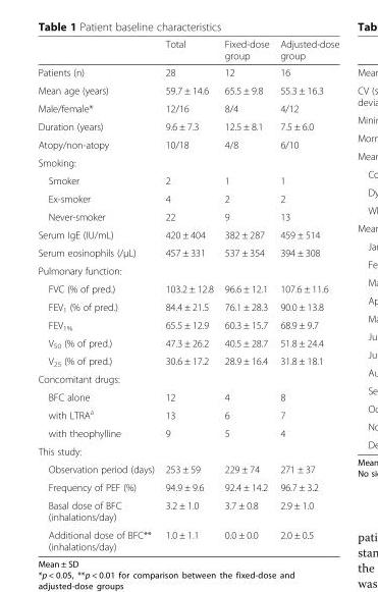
<table><thead><tr><td></td><td>Total</td><td>Fixed-dose group</td><td>Adjusted-dose group</td></tr></thead><tbody><tr><td>Patients (n)</td><td>28</td><td>12</td><td>16</td></tr><tr><td>Mean age (years)</td><td>59.7 ± 14.6</td><td>65.5 ± 9.8</td><td>55.3 ± 16.3</td></tr><tr><td>Male/female*</td><td>12/16</td><td>8/4</td><td>4/12</td></tr><tr><td>Duration (years)</td><td>9.6 ± 7.3</td><td>12.5 ± 8.1</td><td>7.5 ± 6.0</td></tr><tr><td>Atopy/non-atopy</td><td>10/18</td><td>4/8</td><td>6/10</td></tr><tr><td colspan="4">Smoking:</td></tr><tr><td>Smoker</td><td>2</td><td>1</td><td>1</td></tr><tr><td>Ex-smoker</td><td>4</td><td>2</td><td>2</td></tr><tr><td>Never-smoker</td><td>22</td><td>9</td><td>13</td></tr><tr><td>Serum IgE (IU/mL)</td><td>420 ± 404</td><td>382 ± 287</td><td>459 ± 514</td></tr><tr><td>Serum eosinophils (/μL)</td><td>457 ± 331</td><td>537 ± 354</td><td>394 ± 308</td></tr><tr><td colspan="4">Pulmonary function:</td></tr><tr><td>FVC (% of pred.)</td><td>103.2 ± 12.8</td><td>96.6 ± 12.1</td><td>107.6 ± 11.6</td></tr><tr><td>FEV<sub>1</sub> (% of pred.)</td><td>84.4 ± 21.5</td><td>76.1 ± 28.3</td><td>90.0 ± 13.8</td></tr><tr><td>FEV<sub>1%</sub></td><td>65.5 ± 12.9</td><td>60.3 ± 15.7</td><td>68.9 ± 9.7</td></tr><tr><td>V<sub>50</sub> (% of pred.)</td><td>47.3 ± 26.2</td><td>40.5 ± 28.7</td><td>51.8 ± 24.4</td></tr><tr><td>V<sub>25</sub> (% of pred.)</td><td>30.6 ± 17.2</td><td>28.9 ± 16.4</td><td>31.8 ± 18.1</td></tr><tr><td colspan="4">Concomitant drugs:</td></tr><tr><td>BFC alone</td><td>12</td><td>4</td><td>8</td></tr><tr><td>with LTRA<sup>a</sup></td><td>13</td><td>6</td><td>7</td></tr><tr><td>with theophylline</td><td>9</td><td>5</td><td>4</td></tr><tr><td colspan="4">This study:</td></tr><tr><td>Observation period (days)</td><td>253 ± 59</td><td>229 ± 74</td><td>271 ± 37</td></tr><tr><td>Frequency of PEF (%)</td><td>94.9 ± 9.6</td><td>92.4 ± 14.2</td><td>96.7 ± 3.2</td></tr><tr><td>Basal dose of BFC (inhalations/day)</td><td>3.2 ± 1.0</td><td>3.7 ± 0.8</td><td>2.9 ± 1.0</td></tr><tr><td>Additional dose of BFC** (inhalations/day)</td><td>1.0 ± 1.1</td><td>0.0 ± 0.0</td><td>2.0 ± 0.5</td></tr></tbody></table>